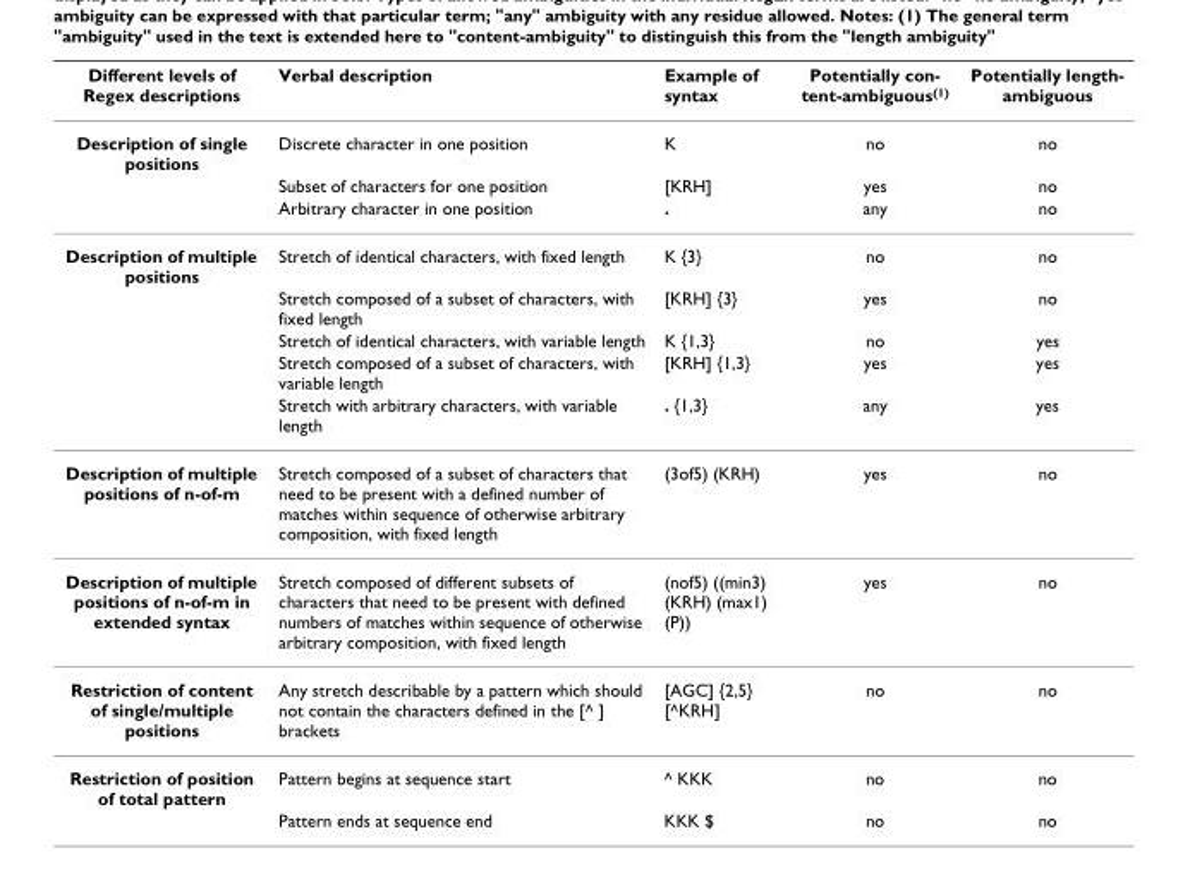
<table><thead><tr><td>Different levels of Regex descriptions</td><td>Verbal description</td><td>Example of syntax</td><td>Potentially con- tent-ambiguous(1)</td><td>Potentially length- ambiguous</td></tr></thead><tbody><tr><td rowspan="3">Description of single positions</td><td>Discrete character in one position</td><td>K</td><td>no</td><td>no</td></tr><tr><td>Subset of characters for one position</td><td>[KRH]</td><td>yes</td><td>no</td></tr><tr><td>Arbitrary character in one position</td><td>.</td><td>any</td><td>no</td></tr><tr><td rowspan="5">Description of multiple positions</td><td>Stretch of identical characters, with fixed length</td><td>K {3}</td><td>no</td><td>no</td></tr><tr><td>Stretch composed of a subset of characters, with fixed length</td><td>[KRH] {3}</td><td>yes</td><td>no</td></tr><tr><td>Stretch of identical characters, with variable length</td><td>K {1,3}</td><td>no</td><td>yes</td></tr><tr><td>Stretch composed of a subset of characters, with variable length</td><td>[KRH] {1,3}</td><td>yes</td><td>yes</td></tr><tr><td>Stretch with arbitrary characters, with variable length</td><td>. {1,3}</td><td>any</td><td>yes</td></tr><tr><td>Description of multiple positions of n-of-m</td><td>Stretch composed of a subset of characters that need to be present with a defined number of matches within sequence of otherwise arbitrary composition, with fixed length</td><td>(3of5) (KRH)</td><td>yes</td><td>no</td></tr><tr><td>Description of multiple positions of n-of-m in extended syntax</td><td>Stretch composed of different subsets of characters that need to be present with defined numbers of matches within sequence of otherwise arbitrary composition, with fixed length</td><td>(nof5) ((min3) (KRH) (max1) (P))</td><td>yes</td><td>no</td></tr><tr><td>Restriction of content of single/multiple positions</td><td>Any stretch describable by a pattern which should not contain the characters defined in the [^ ] brackets</td><td>[AGC] {2,5} [^KRH]</td><td>no</td><td>no</td></tr><tr><td rowspan="2">Restriction of position of total pattern</td><td>Pattern begins at sequence start</td><td>^ KKK</td><td>no</td><td>no</td></tr><tr><td>Pattern ends at sequence end</td><td>KKK $</td><td>no</td><td>no</td></tr></tbody></table>